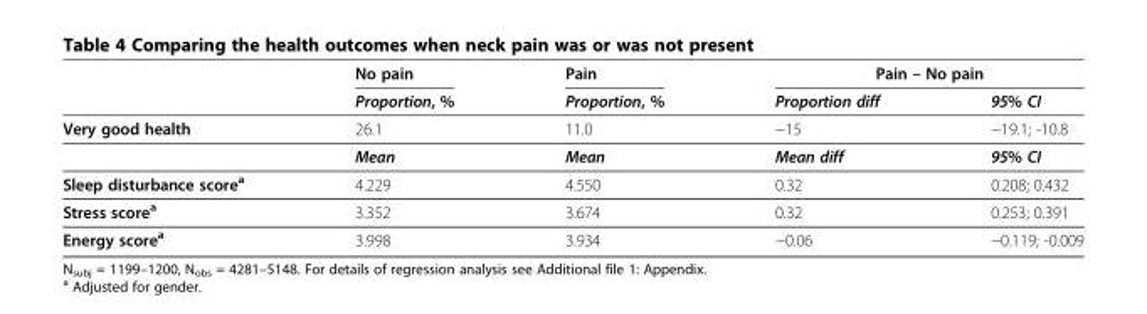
<table><thead><tr><td rowspan="2"></td><td rowspan="2">No pain Proportion, %</td><td rowspan="2">Pain Proportion, %</td><td rowspan="2">Pain – No pain Proportion diff</td><td rowspan="2">95% CI</td></tr><tr></tr></thead><tbody><tr><td rowspan="2">Very good health</td><td>26.1</td><td>11.0</td><td>−15</td><td>−19.1; -10.8</td></tr><tr><td>Mean</td><td>Mean</td><td>Mean diff</td><td>95% CI</td></tr><tr><td>Sleep disturbance score<sup>a</sup></td><td>4.229</td><td>4.550</td><td>0.32</td><td>0.208; 0.432</td></tr><tr><td>Stress score<sup>a</sup></td><td>3.352</td><td>3.674</td><td>0.32</td><td>0.253; 0.391</td></tr><tr><td>Energy score<sup>a</sup></td><td>3.998</td><td>3.934</td><td>−0.06</td><td>−0.119; -0.009</td></tr></tbody></table>